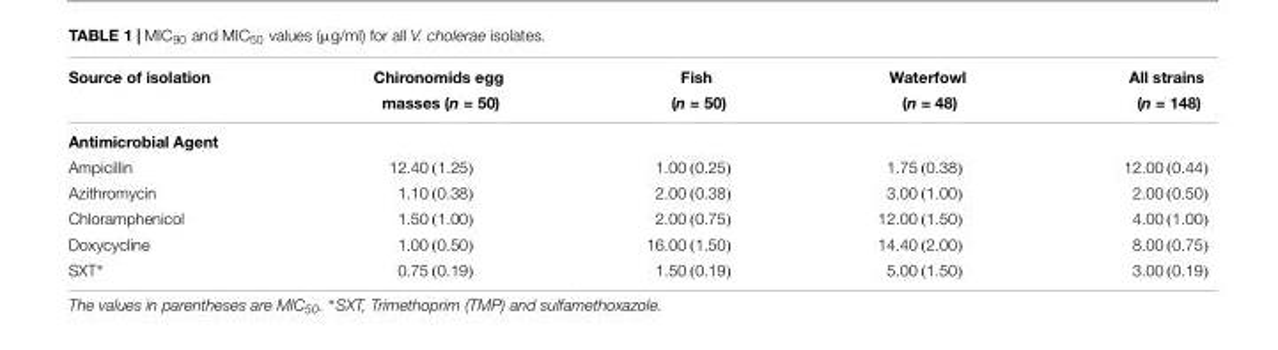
<table><thead><tr><td rowspan="2">Source of isolation</td><td rowspan="2">Chironomids egg masses (n = 50)</td><td rowspan="2">Fish (n = 50)</td><td rowspan="2">Waterfowl (n = 48)</td><td rowspan="2">All strains (n = 148)</td></tr><tr></tr></thead><tbody><tr><td colspan="5">Antimicrobial Agent</td></tr><tr><td>Ampicillin</td><td>12.40 (1.25)</td><td>1.00 (0.25)</td><td>1.75 (0.38)</td><td>12.00 (0.44)</td></tr><tr><td>Azithromycin</td><td>1.10 (0.38)</td><td>2.00 (0.38)</td><td>3.00 (1.00)</td><td>2.00 (0.50)</td></tr><tr><td>Chloramphenicol</td><td>1.50 (1.00)</td><td>2.00 (0.75)</td><td>12.00 (1.50)</td><td>4.00 (1.00)</td></tr><tr><td>Doxycycline</td><td>1.00 (0.50)</td><td>16.00 (1.50)</td><td>14.40 (2.00)</td><td>8.00 (0.75)</td></tr><tr><td>SXT∗</td><td>0.75 (0.19)</td><td>1.50 (0.19)</td><td>5.00 (1.50)</td><td>3.00 (0.19)</td></tr></tbody></table>